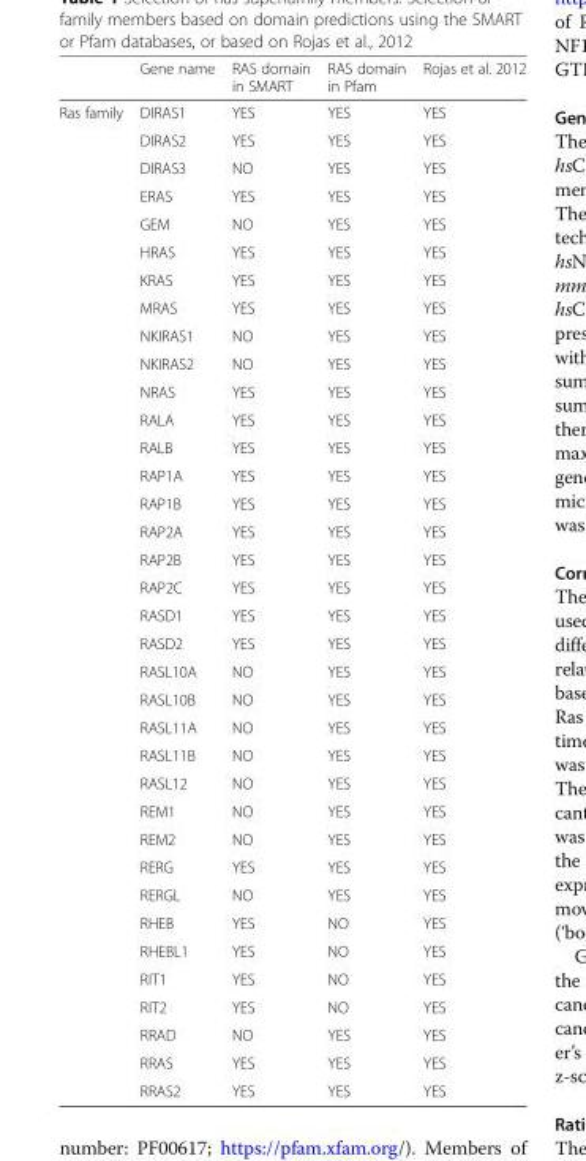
<table><thead><tr><td></td><td>Gene name</td><td>RAS domain in SMART</td><td>RAS domain in Pfam</td><td>Rojas et al. 2012</td></tr></thead><tbody><tr><td rowspan="36">Ras family</td><td>DIRAS1</td><td>YES</td><td>YES</td><td>YES</td></tr><tr><td>DIRAS2</td><td>YES</td><td>YES</td><td>YES</td></tr><tr><td>DIRAS3</td><td>NO</td><td>YES</td><td>YES</td></tr><tr><td>ERAS</td><td>YES</td><td>YES</td><td>YES</td></tr><tr><td>GEM</td><td>NO</td><td>YES</td><td>YES</td></tr><tr><td>HRAS</td><td>YES</td><td>YES</td><td>YES</td></tr><tr><td>KRAS</td><td>YES</td><td>YES</td><td>YES</td></tr><tr><td>MRAS</td><td>YES</td><td>YES</td><td>YES</td></tr><tr><td>NKIRAS1</td><td>NO</td><td>YES</td><td>YES</td></tr><tr><td>NKIRAS2</td><td>NO</td><td>YES</td><td>YES</td></tr><tr><td>NRAS</td><td>YES</td><td>YES</td><td>YES</td></tr><tr><td>RALA</td><td>YES</td><td>YES</td><td>YES</td></tr><tr><td>RALB</td><td>YES</td><td>YES</td><td>YES</td></tr><tr><td>RAP1A</td><td>YES</td><td>YES</td><td>YES</td></tr><tr><td>RAP1B</td><td>YES</td><td>YES</td><td>YES</td></tr><tr><td>RAP2A</td><td>YES</td><td>YES</td><td>YES</td></tr><tr><td>RAP2B</td><td>YES</td><td>YES</td><td>YES</td></tr><tr><td>RAP2C</td><td>YES</td><td>YES</td><td>YES</td></tr><tr><td>RASD1</td><td>YES</td><td>YES</td><td>YES</td></tr><tr><td>RASD2</td><td>YES</td><td>YES</td><td>YES</td></tr><tr><td>RASL10A</td><td>NO</td><td>YES</td><td>YES</td></tr><tr><td>RASL10B</td><td>NO</td><td>YES</td><td>YES</td></tr><tr><td>RASL11A</td><td>NO</td><td>YES</td><td>YES</td></tr><tr><td>RASL11B</td><td>NO</td><td>YES</td><td>YES</td></tr><tr><td>RASL12</td><td>NO</td><td>YES</td><td>YES</td></tr><tr><td>REM1</td><td>NO</td><td>YES</td><td>YES</td></tr><tr><td>REM2</td><td>NO</td><td>YES</td><td>YES</td></tr><tr><td>RERG</td><td>YES</td><td>YES</td><td>YES</td></tr><tr><td>RERGL</td><td>NO</td><td>YES</td><td>YES</td></tr><tr><td>RHEB</td><td>YES</td><td>NO</td><td>YES</td></tr><tr><td>RHEBL1</td><td>YES</td><td>NO</td><td>YES</td></tr><tr><td>RIT1</td><td>YES</td><td>NO</td><td>YES</td></tr><tr><td>RIT2</td><td>YES</td><td>NO</td><td>YES</td></tr><tr><td>RRAD</td><td>NO</td><td>YES</td><td>YES</td></tr><tr><td>RRAS</td><td>YES</td><td>YES</td><td>YES</td></tr><tr><td>RRAS2</td><td>YES</td><td>YES</td><td>YES</td></tr></tbody></table>